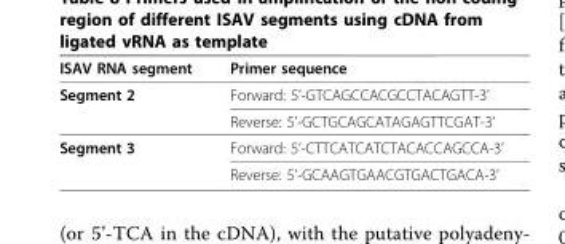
<table><thead><tr><td>ISAV RNA segment</td><td>Primer sequence</td></tr></thead><tbody><tr><td rowspan="2">Segment 2</td><td>Forward: 5’-GTCAGCCACGCCTACAGTT-3’</td></tr><tr><td>Reverse: 5’-GCTGCAGCATAGAGTTCGAT-3’</td></tr><tr><td rowspan="2">Segment 3</td><td>Forward: 5’-CTTCATCATCTACACCAGCCA-3’</td></tr><tr><td>Reverse: 5’-GCAAGTGAACGTGACTGACA-3’</td></tr></tbody></table>